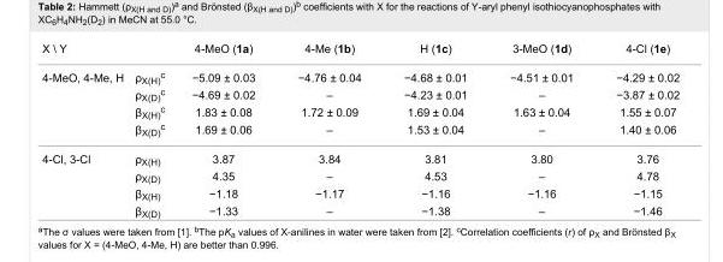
<table><tbody><tr><td colspan="2">X \ Y</td><td>4-MeO (1a)</td><td>4-Me (1b)</td><td>H (1c)</td><td>3-MeO (1d)</td><td>4-Cl (1e)</td></tr><tr><td rowspan="4">4-MeO, 4-Me, H</td><td>ρ<sub>X(H)</sub><sup>c</sup></td><td>−5.09 ± 0.03</td><td>−4.76 ± 0.04</td><td>−4.68 ± 0.01</td><td>−4.51 ± 0.01</td><td>−4.29 ± 0.02</td></tr><tr><td>ρ<sub>X(D)</sub><sup>c</sup></td><td>−4.69 ± 0.02</td><td>–</td><td>−4.23 ± 0.01</td><td>–</td><td>−3.87 ± 0.02</td></tr><tr><td>β<sub>X(H)</sub><sup>c</sup></td><td>1.83 ± 0.08</td><td>1.72 ± 0.09</td><td>1.69 ± 0.04</td><td>1.63 ± 0.04</td><td>1.55 ± 0.07</td></tr><tr><td>β<sub>X(D)</sub><sup>c</sup></td><td>1.69 ± 0.06</td><td>–</td><td>1.53 ± 0.04</td><td>–</td><td>1.40 ± 0.06</td></tr><tr><td rowspan="4">4-Cl, 3-Cl</td><td>ρ<sub>X(H)</sub></td><td>3.87</td><td>3.84</td><td>3.81</td><td>3.80</td><td>3.76</td></tr><tr><td>ρ<sub>X(D)</sub></td><td>4.35</td><td>–</td><td>4.53</td><td>–</td><td>4.78</td></tr><tr><td>β<sub>X(H)</sub></td><td>−1.18</td><td>−1.17</td><td>−1.16</td><td>−1.16</td><td>−1.15</td></tr><tr><td>β<sub>X(D)</sub></td><td>−1.33</td><td>–</td><td>−1.38</td><td>–</td><td>−1.46</td></tr></tbody></table>